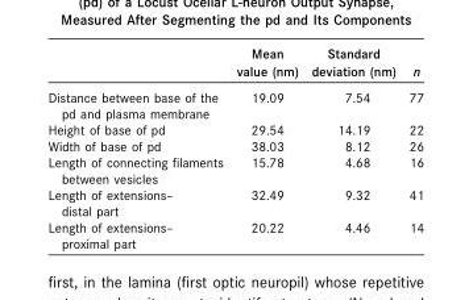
<table><thead><tr><td></td><td>Mean value (nm)</td><td>Standard deviation (nm)</td><td>n</td></tr></thead><tbody><tr><td>Distance between base of the pd and plasma membrane</td><td>19.09</td><td>7.54</td><td>77</td></tr><tr><td>Height of base of pd</td><td>29.54</td><td>14.19</td><td>22</td></tr><tr><td>Width of base of pd</td><td>38.03</td><td>8.12</td><td>26</td></tr><tr><td>Length of connecting filaments between vesicles</td><td>15.78</td><td>4.68</td><td>16</td></tr><tr><td>Length of extensions– distal part</td><td>32.49</td><td>9.32</td><td>41</td></tr><tr><td>Length of extensions– proximal part</td><td>20.22</td><td>4.46</td><td>14</td></tr></tbody></table>